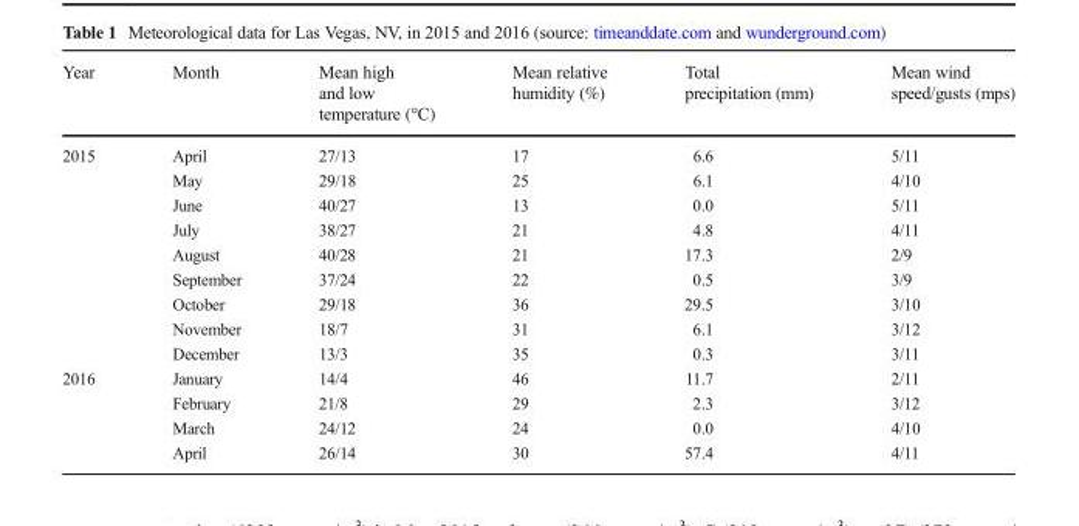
<table><thead><tr><td>Year</td><td>Month</td><td>Mean high and low temperature (°C)</td><td>Mean relative humidity (%)</td><td>Total precipitation (mm)</td><td>Mean wind speed/gusts (mps)</td></tr></thead><tbody><tr><td rowspan="9">2015</td><td>April</td><td>27/13</td><td>17</td><td>6.6</td><td>5/11</td></tr><tr><td>May</td><td>29/18</td><td>25</td><td>6.1</td><td>4/10</td></tr><tr><td>June</td><td>40/27</td><td>13</td><td>0.0</td><td>5/11</td></tr><tr><td>July</td><td>38/27</td><td>21</td><td>4.8</td><td>4/11</td></tr><tr><td>August</td><td>40/28</td><td>21</td><td>17.3</td><td>2/9</td></tr><tr><td>September</td><td>37/24</td><td>22</td><td>0.5</td><td>3/9</td></tr><tr><td>October</td><td>29/18</td><td>36</td><td>29.5</td><td>3/10</td></tr><tr><td>November</td><td>18/7</td><td>31</td><td>6.1</td><td>3/12</td></tr><tr><td>December</td><td>13/3</td><td>35</td><td>0.3</td><td>3/11</td></tr><tr><td rowspan="4">2016</td><td>January</td><td>14/4</td><td>46</td><td>11.7</td><td>2/11</td></tr><tr><td>February</td><td>21/8</td><td>29</td><td>2.3</td><td>3/12</td></tr><tr><td>March</td><td>24/12</td><td>24</td><td>0.0</td><td>4/10</td></tr><tr><td>April</td><td>26/14</td><td>30</td><td>57.4</td><td>4/11</td></tr></tbody></table>